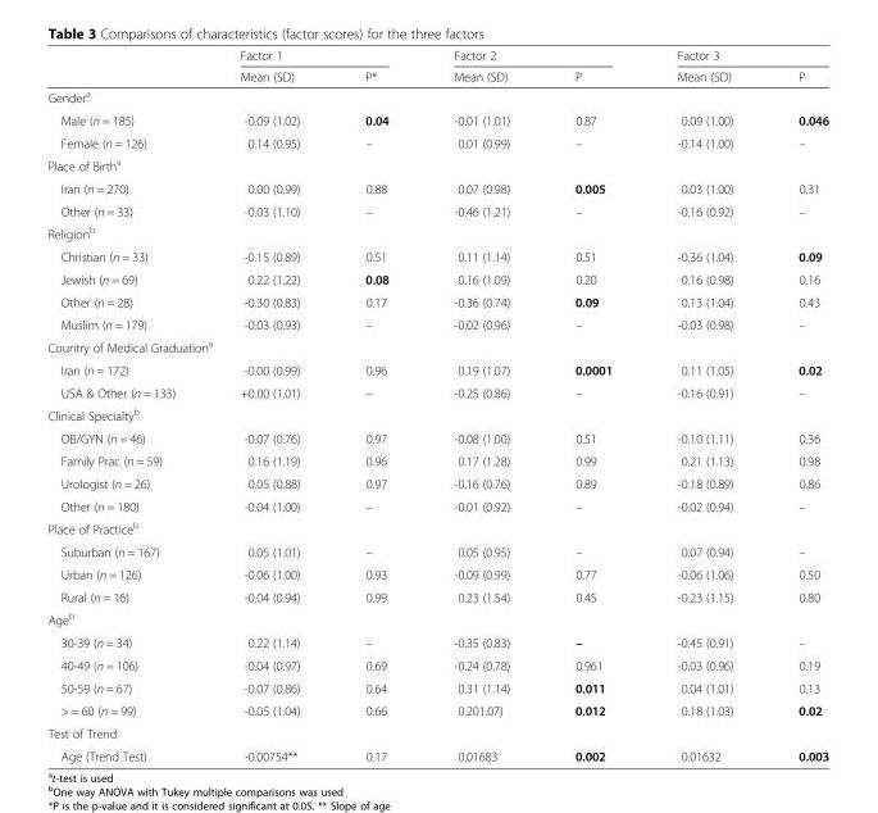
<table><thead><tr><td rowspan="2"></td><td colspan="2">Factor 1</td><td colspan="2">Factor 2</td><td colspan="2">Factor 3</td></tr><tr><td>Mean (SD)</td><td>P*</td><td>Mean (SD)</td><td>P</td><td>Mean (SD)</td><td>P</td></tr></thead><tbody><tr><td colspan="7">Gender<sup>a</sup></td></tr><tr><td>Male (n = 185)</td><td>-0.09 (1.02)</td><td>0.04</td><td>-0.01 (1.01)</td><td>0.87</td><td>0.09 (1.00)</td><td>0.046</td></tr><tr><td>Female (n = 126)</td><td>0.14 (0.95)</td><td>–</td><td>0.01 (0.99)</td><td>–</td><td>-0.14 (1.00)</td><td>–</td></tr><tr><td colspan="7">Place of Birth<sup>a</sup></td></tr><tr><td>Iran (n = 270)</td><td>0.00 (0.99)</td><td>0.88</td><td>0.07 (0.98)</td><td>0.005</td><td>0.03 (1.00)</td><td>0.31</td></tr><tr><td>Other (n = 33)</td><td>-0.03 (1.10)</td><td>–</td><td>-0.46 (1.21)</td><td>–</td><td>-0.16 (0.92)</td><td>–</td></tr><tr><td colspan="7">Religion<sup>b</sup></td></tr><tr><td>Christian (n = 33)</td><td>-0.15 (0.89)</td><td>0.51</td><td>0.11 (1.14)</td><td>0.51</td><td>-0.36 (1.04)</td><td>0.09</td></tr><tr><td>Jewish (n = 69)</td><td>0.22 (1.22)</td><td>0.08</td><td>0.16 (1.09)</td><td>0.20</td><td>0.16 (0.98)</td><td>0.16</td></tr><tr><td>Other (n = 28)</td><td>-0.30 (0.83)</td><td>0.17</td><td>-0.36 (0.74)</td><td>0.09</td><td>0.13 (1.04)</td><td>0.43</td></tr><tr><td>Muslim (n = 179)</td><td>-0.03 (0.93)</td><td>–</td><td>-0.02 (0.96)</td><td>–</td><td>-0.03 (0.98)</td><td>–</td></tr><tr><td colspan="7">Country of Medical Graduation<sup>a</sup></td></tr><tr><td>Iran (n = 172)</td><td>-0.00 (0.99)</td><td>0.96</td><td>0.19 (1.07)</td><td>0.0001</td><td>0.11 (1.05)</td><td>0.02</td></tr><tr><td>USA &amp; Other (n = 133)</td><td>+0.00 (1.01)</td><td>–</td><td>-0.25 (0.86)</td><td>–</td><td>-0.16 (0.91)</td><td>–</td></tr><tr><td colspan="7">Clinical Specialty<sup>b</sup></td></tr><tr><td>OB/GYN (n = 46)</td><td>-0.07 (0.76)</td><td>0.97</td><td>-0.08 (1.00)</td><td>0.51</td><td>-0.10 (1.11)</td><td>0.36</td></tr><tr><td>Family Prac (n = 59)</td><td>0.16 (1.19)</td><td>0.96</td><td>0.17 (1.28)</td><td>0.99</td><td>0.21 (1.13)</td><td>0.98</td></tr><tr><td>Urologist (n = 26)</td><td>0.05 (0.88)</td><td>0.97</td><td>-0.16 (0.76)</td><td>0.89</td><td>-0.18 (0.89)</td><td>0.86</td></tr><tr><td>Other (n = 180)</td><td>-0.04 (1.00)</td><td>–</td><td>-0.01 (0.92)</td><td>–</td><td>-0.02 (0.94)</td><td>–</td></tr><tr><td colspan="7">Place of Practice<sup>b</sup></td></tr><tr><td>Suburban (n = 167)</td><td>0.05 (1.01)</td><td>–</td><td>0.05 (0.95)</td><td>–</td><td>0.07 (0.94)</td><td>–</td></tr><tr><td>Urban (n = 126)</td><td>-0.06 (1.00)</td><td>0.93</td><td>-0.09 (0.99)</td><td>0.77</td><td>-0.06 (1.06)</td><td>0.50</td></tr><tr><td>Rural (n = 16)</td><td>-0.04 (0.94)</td><td>0.99</td><td>0.23 (1.54)</td><td>0.45</td><td>-0.23 (1.15)</td><td>0.80</td></tr><tr><td colspan="7">Age<sup>b</sup></td></tr><tr><td>30-39 (n = 34)</td><td>0.22 (1.14)</td><td>–</td><td>-0.35 (0.83)</td><td>–</td><td>-0.45 (0.91)</td><td>–</td></tr><tr><td>40-49 (n = 106)</td><td>-0.04 (0.97)</td><td>0.69</td><td>-0.24 (0.78)</td><td>0.961</td><td>-0.03 (0.96)</td><td>0.19</td></tr><tr><td>50-59 (n = 67)</td><td>-0.07 (0.86)</td><td>0.64</td><td>0.31 (1.14)</td><td>0.011</td><td>0.04 (1.01)</td><td>0.13</td></tr><tr><td>&gt; = 60 (n = 99)</td><td>-0.05 (1.04)</td><td>0.66</td><td>0.201.07)</td><td>0.012</td><td>0.18 (1.03)</td><td>0.02</td></tr><tr><td colspan="7">Test of Trend</td></tr><tr><td>Age (Trend Test)</td><td>-0.00754**</td><td>0.17</td><td>0.01683</td><td>0.002</td><td>0.01632</td><td>0.003</td></tr></tbody></table>